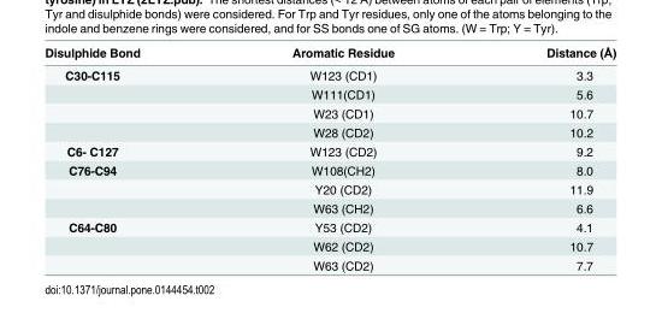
<table><thead><tr><td>Disulphide Bond</td><td>Aromatic Residue</td><td>Distance (Å)</td></tr></thead><tbody><tr><td rowspan="4">C30-C115</td><td>W123 (CD1)</td><td>3.3</td></tr><tr><td>W111(CD1)</td><td>5.6</td></tr><tr><td>W23 (CD1)</td><td>10.7</td></tr><tr><td>W28 (CD2)</td><td>10.2</td></tr><tr><td>C6- C127</td><td>W123 (CD2)</td><td>9.2</td></tr><tr><td rowspan="3">C76-C94</td><td>W108(CH2)</td><td>8.0</td></tr><tr><td>Y20 (CD2)</td><td>11.9</td></tr><tr><td>W63 (CH2)</td><td>6.6</td></tr><tr><td rowspan="3">C64-C80</td><td>Y53 (CD2)</td><td>4.1</td></tr><tr><td>W62 (CD2)</td><td>10.7</td></tr><tr><td>W63 (CD2)</td><td>7.7</td></tr></tbody></table>